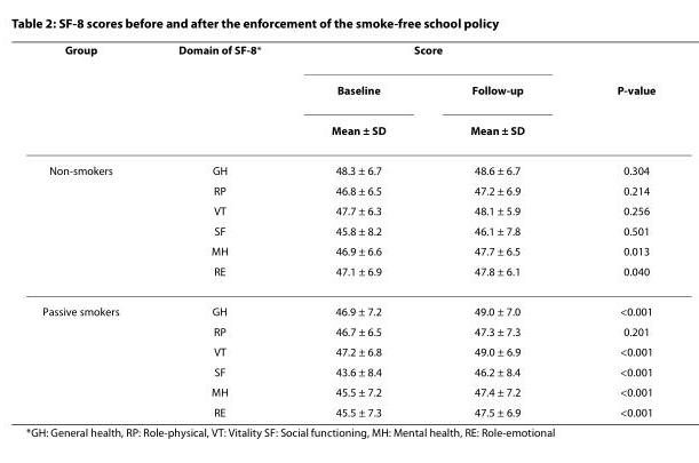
<table><thead><tr><td rowspan="3">Group</td><td rowspan="3">Domain of SF-8*</td><td colspan="2">Score</td><td rowspan="3">P-value</td></tr><tr><td rowspan="2">Baseline Mean ± SD</td><td rowspan="2">Follow-up Mean ± SD</td></tr><tr></tr></thead><tbody><tr><td rowspan="6">Non-smokers</td><td>GH</td><td>48.3 ± 6.7</td><td>48.6 ± 6.7</td><td>0.304</td></tr><tr><td>RP</td><td>46.8 ± 6.5</td><td>47.2 ± 6.9</td><td>0.214</td></tr><tr><td>VT</td><td>47.7 ± 6.3</td><td>48.1 ± 5.9</td><td>0.256</td></tr><tr><td>SF</td><td>45.8 ± 8.2</td><td>46.1 ± 7.8</td><td>0.501</td></tr><tr><td>MH</td><td>46.9 ± 6.6</td><td>47.7 ± 6.5</td><td>0.013</td></tr><tr><td>RE</td><td>47.1 ± 6.9</td><td>47.8 ± 6.1</td><td>0.040</td></tr><tr><td rowspan="6">Passive smokers</td><td>GH</td><td>46.9 ± 7.2</td><td>49.0 ± 7.0</td><td>&lt;0.001</td></tr><tr><td>RP</td><td>46.7 ± 6.5</td><td>47.3 ± 7.3</td><td>0.201</td></tr><tr><td>VT</td><td>47.2 ± 6.8</td><td>49.0 ± 6.9</td><td>&lt;0.001</td></tr><tr><td>SF</td><td>43.6 ± 8.4</td><td>46.2 ± 8.4</td><td>&lt;0.001</td></tr><tr><td>MH</td><td>45.5 ± 7.2</td><td>47.4 ± 7.2</td><td>&lt;0.001</td></tr><tr><td>RE</td><td>45.5 ± 7.3</td><td>47.5 ± 6.9</td><td>&lt;0.001</td></tr></tbody></table>